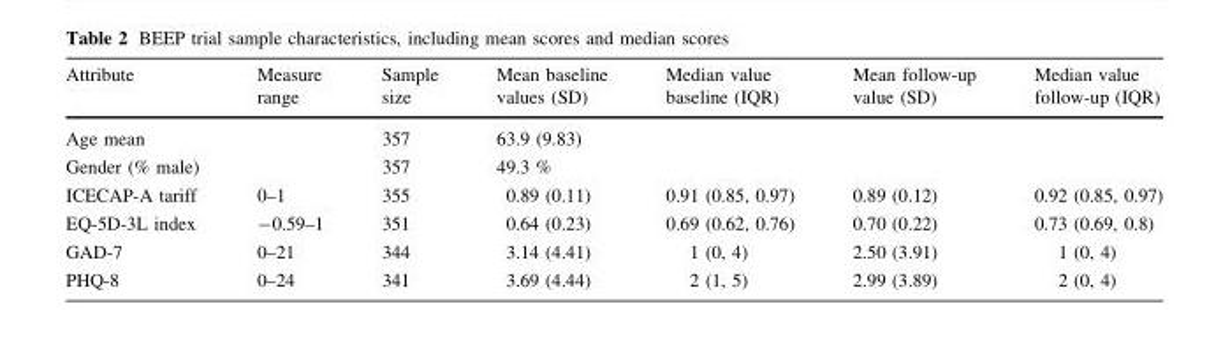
<table><thead><tr><td>Attribute</td><td>Measure range</td><td>Sample size</td><td>Mean baseline values (SD)</td><td>Median value baseline (IQR)</td><td>Mean follow-up value (SD)</td><td>Median value follow-up (IQR)</td></tr></thead><tbody><tr><td>Age mean</td><td></td><td>357</td><td>63.9 (9.83)</td><td></td><td></td><td></td></tr><tr><td>Gender (% male)</td><td></td><td>357</td><td>49.3 %</td><td></td><td></td><td></td></tr><tr><td>ICECAP-A tariff</td><td>0–1</td><td>355</td><td>0.89 (0.11)</td><td>0.91 (0.85, 0.97)</td><td>0.89 (0.12)</td><td>0.92 (0.85, 0.97)</td></tr><tr><td>EQ-5D-3L index</td><td>-0.59–1</td><td>351</td><td>0.64 (0.23)</td><td>0.69 (0.62, 0.76)</td><td>0.70 (0.22)</td><td>0.73 (0.69, 0.8)</td></tr><tr><td>GAD-7</td><td>0–21</td><td>344</td><td>3.14 (4.41)</td><td>1 (0, 4)</td><td>2.50 (3.91)</td><td>1 (0, 4)</td></tr><tr><td>PHQ-8</td><td>0–24</td><td>341</td><td>3.69 (4.44)</td><td>2 (1, 5)</td><td>2.99 (3.89)</td><td>2 (0, 4)</td></tr></tbody></table>